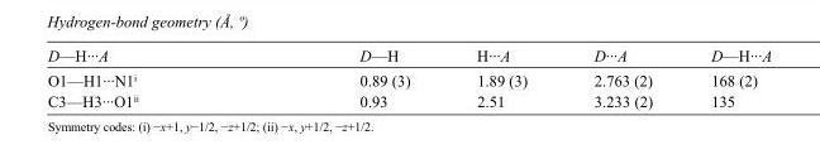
<table><tbody><tr><td>D—H···A</td><td>D—H</td><td>H···A</td><td>D···A</td><td>D—H···A</td></tr><tr><td>O1—H1···N1<sup>i</sup></td><td>0.89 (3)</td><td>1.89 (3)</td><td>2.763 (2)</td><td>168 (2)</td></tr><tr><td>C3—H3···O1<sup>ii</sup></td><td>0.93</td><td>2.51</td><td>3.233 (2)</td><td>135</td></tr></tbody></table>